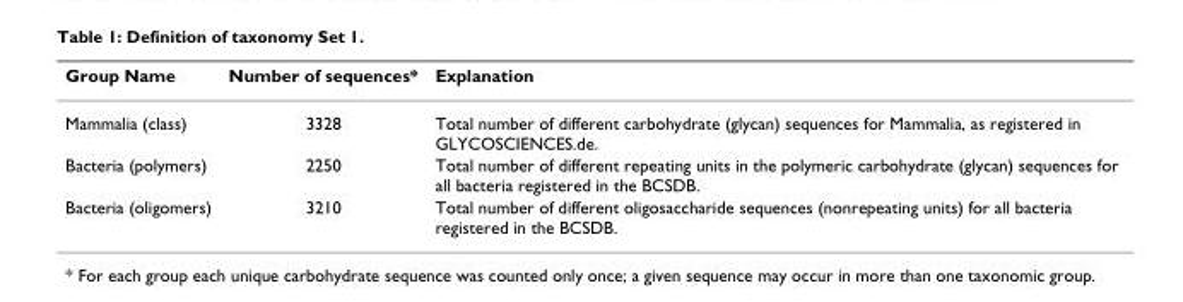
<table><thead><tr><td>Group Name</td><td>Number of sequences*</td><td>Explanation</td></tr></thead><tbody><tr><td>Mammalia (class)</td><td>3328</td><td>Total number of different carbohydrate (glycan) sequences for Mammalia, as registered in GLYCOSCIENCES.de.</td></tr><tr><td>Bacteria (polymers)</td><td>2250</td><td>Total number of different repeating units in the polymeric carbohydrate (glycan) sequences for all bacteria registered in the BCSDB.</td></tr><tr><td>Bacteria (oligomers)</td><td>3210</td><td>Total number of different oligosaccharide sequences (nonrepeating units) for all bacteria registered in the BCSDB.</td></tr></tbody></table>